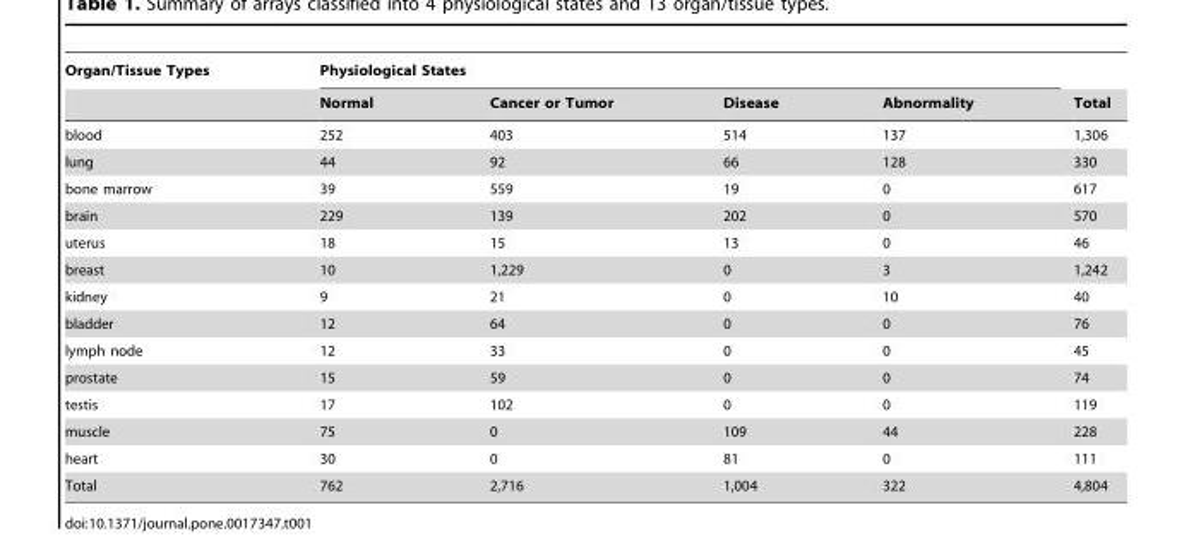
<table><thead><tr><td rowspan="2">Organ/Tissue Types</td><td colspan="4">Physiological States</td><td rowspan="2">Total</td></tr><tr><td>Normal</td><td>Cancer or Tumor</td><td>Disease</td><td>Abnormality</td></tr></thead><tbody><tr><td>blood</td><td>252</td><td>403</td><td>514</td><td>137</td><td>1,306</td></tr><tr><td>lung</td><td>44</td><td>92</td><td>66</td><td>128</td><td>330</td></tr><tr><td>bone marrow</td><td>39</td><td>559</td><td>19</td><td>0</td><td>617</td></tr><tr><td>brain</td><td>229</td><td>139</td><td>202</td><td>0</td><td>570</td></tr><tr><td>uterus</td><td>18</td><td>15</td><td>13</td><td>0</td><td>46</td></tr><tr><td>breast</td><td>10</td><td>1,229</td><td>0</td><td>3</td><td>1,242</td></tr><tr><td>kidney</td><td>9</td><td>21</td><td>0</td><td>10</td><td>40</td></tr><tr><td>bladder</td><td>12</td><td>64</td><td>0</td><td>0</td><td>76</td></tr><tr><td>lymph node</td><td>12</td><td>33</td><td>0</td><td>0</td><td>45</td></tr><tr><td>prostate</td><td>15</td><td>59</td><td>0</td><td>0</td><td>74</td></tr><tr><td>testis</td><td>17</td><td>102</td><td>0</td><td>0</td><td>119</td></tr><tr><td>muscle</td><td>75</td><td>0</td><td>109</td><td>44</td><td>228</td></tr><tr><td>heart</td><td>30</td><td>0</td><td>81</td><td>0</td><td>111</td></tr><tr><td>Total</td><td>762</td><td>2,716</td><td>1,004</td><td>322</td><td>4,804</td></tr></tbody></table>